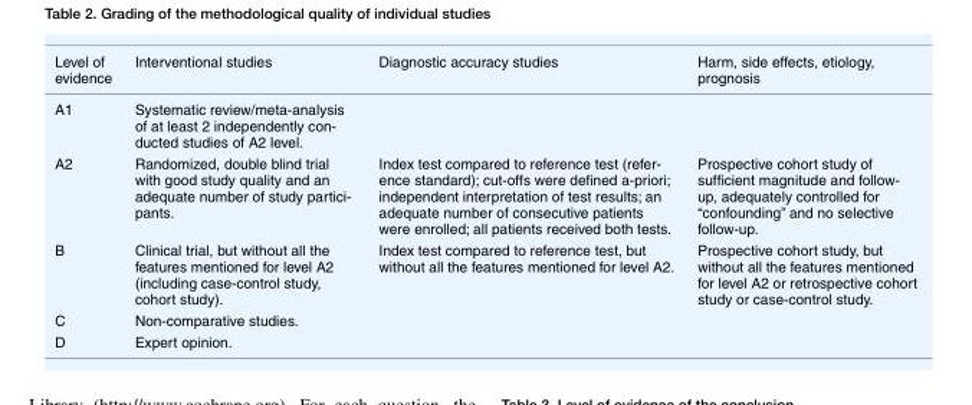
<table><thead><tr><td>Level of evidence</td><td>Interventional studies</td><td>Diagnostic accuracy studies</td><td>Harm, side effects, etiology, prognosis</td></tr></thead><tbody><tr><td>A1</td><td>Systematic review/meta-analysis of at least 2 independently con- ducted studies of A2 level.</td><td></td><td></td></tr><tr><td>A2</td><td>Randomized, double blind trial with good study quality and an adequate number of study partici- pants.</td><td>Index test compared to reference test (refer- ence standard); cut-offs were defined a-priori; independent interpretation of test results; an adequate number of consecutive patients were enrolled; all patients received both tests.</td><td>Prospective cohort study of sufficient magnitude and follow- up, adequately controlled for “confounding” and no selective follow-up.</td></tr><tr><td>B</td><td>Clinical trial, but without all the features mentioned for level A2 (including case-control study, cohort study).</td><td>Index test compared to reference test, but without all the features mentioned for level A2.</td><td>Prospective cohort study, but without all the features mentioned for level A2 or retrospective cohort study or case-control study.</td></tr><tr><td>C</td><td>Non-comparative studies.</td><td></td><td></td></tr><tr><td>D</td><td>Expert opinion.</td><td></td><td></td></tr></tbody></table>